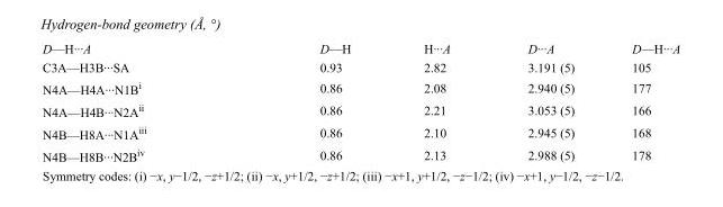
<table><tbody><tr><td>D—H···A</td><td>D—H</td><td>H···A</td><td>D···A</td><td>D—H···A</td></tr><tr><td>C3A—H3B···SA</td><td>0.93</td><td>2.82</td><td>3.191 (5)</td><td>105</td></tr><tr><td>N4A—H4A···N1B<sup>i</sup></td><td>0.86</td><td>2.08</td><td>2.940 (5)</td><td>177</td></tr><tr><td>N4A—H4B···N2A<sup>ii</sup></td><td>0.86</td><td>2.21</td><td>3.053 (5)</td><td>166</td></tr><tr><td>N4B—H8A···N1A<sup>iii</sup></td><td>0.86</td><td>2.10</td><td>2.945 (5)</td><td>168</td></tr><tr><td>N4B—H8B···N2B<sup>iv</sup></td><td>0.86</td><td>2.13</td><td>2.988 (5)</td><td>178</td></tr></tbody></table>